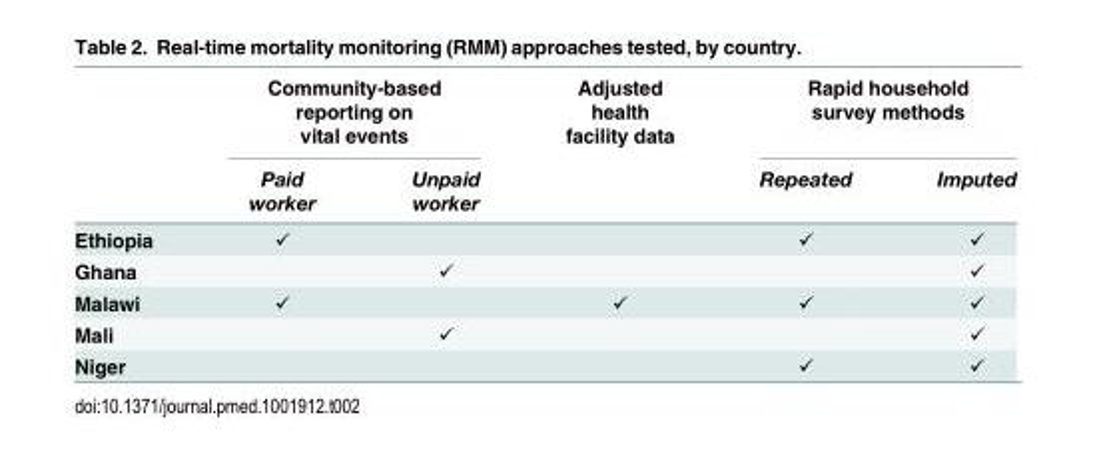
<table><thead><tr><td rowspan="2"></td><td colspan="2">Community-based reporting on vital events</td><td rowspan="2">Adjusted health facility data</td><td colspan="2">Rapid household survey methods</td></tr><tr><td>Paid worker</td><td>Unpaid worker</td><td>Repeated</td><td>Imputed</td></tr></thead><tbody><tr><td>Ethiopia</td><td>✓</td><td></td><td></td><td>✓</td><td>✓</td></tr><tr><td>Ghana</td><td></td><td>✓</td><td></td><td></td><td>✓</td></tr><tr><td>Malawi</td><td>✓</td><td></td><td>✓</td><td>✓</td><td>✓</td></tr><tr><td>Mali</td><td></td><td>✓</td><td></td><td></td><td>✓</td></tr><tr><td>Niger</td><td></td><td></td><td></td><td>✓</td><td>✓</td></tr></tbody></table>